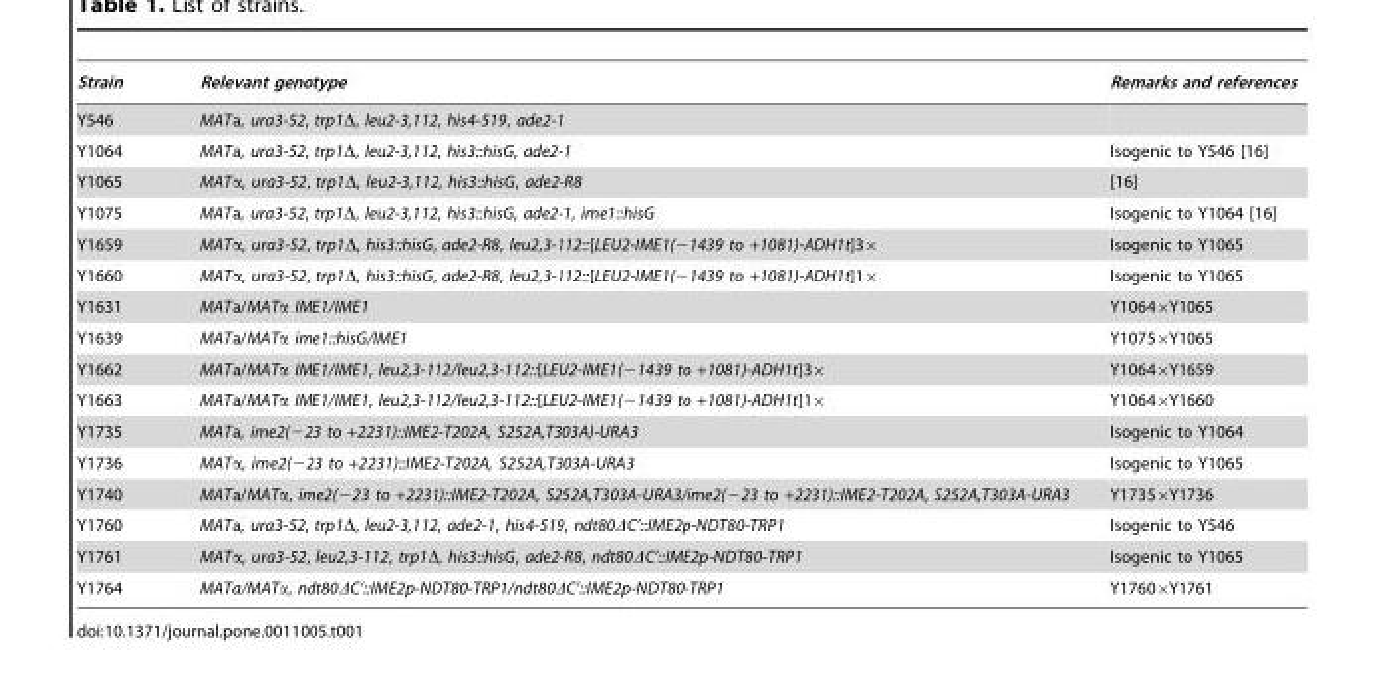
<table><thead><tr><td>Strain</td><td>Relevant genotype</td><td>Remarks and references</td></tr></thead><tbody><tr><td>Y546</td><td>MATa, ura3-52, trp1Δ, leu2-3,112, his4-519, ade2-1</td><td></td></tr><tr><td>Y1064</td><td>MATa, ura3-52, trp1Δ, leu2-3,112, his3::hisG, ade2-1</td><td>Isogenic to Y546 [16]</td></tr><tr><td>Y1065</td><td>MATα, ura3-52, trp1Δ, leu2-3,112, his3::hisG, ade2-R8</td><td>[16]</td></tr><tr><td>Y1075</td><td>MATa, ura3-52, trp1Δ, leu2-3,112, his3::hisG, ade2-1, ime1::hisG</td><td>Isogenic to Y1064 [16]</td></tr><tr><td>Y1659</td><td>MATα, ura3-52, trp1Δ, his3::hisG, ade2-R8, leu2,3-112::[LEU2-IME1(−1439 to +1081)-ADH1t]3×</td><td>Isogenic to Y1065</td></tr><tr><td>Y1660</td><td>MATα, ura3-52, trp1Δ, his3::hisG, ade2-R8, leu2,3-112::[LEU2-IME1(−1439 to +1081)-ADH1t]1×</td><td>Isogenic to Y1065</td></tr><tr><td>Y1631</td><td>MATa/MATα IME1/IME1</td><td>Y1064×Y1065</td></tr><tr><td>Y1639</td><td>MATa/MATα ime1::hisG/IME1</td><td>Y1075×Y1065</td></tr><tr><td>Y1662</td><td>MATa/MATα IME1/IME1, leu2,3-112/leu2,3-112::[LEU2-IME1(−1439 to +1081)-ADH1t]3×</td><td>Y1064×Y1659</td></tr><tr><td>Y1663</td><td>MATa/MATα IME1/IME1, leu2,3-112/leu2,3-112::[LEU2-IME1(−1439 to +1081)-ADH1t]1×</td><td>Y1064×Y1660</td></tr><tr><td>Y1735</td><td>MATa, ime2(−23 to +2231)::IME2-T202A, S252A,T303A)-URA3</td><td>Isogenic to Y1064</td></tr><tr><td>Y1736</td><td>MATα, ime2(−23 to +2231)::IME2-T202A, S252A,T303A-URA3</td><td>Isogenic to Y1065</td></tr><tr><td>Y1740</td><td>MATa/MATα, ime2(−23 to +2231)::IME2-T202A, S252A,T303A-URA3/ime2(−23 to +2231)::IME2-T202A, S252A,T303A-URA3</td><td>Y1735×Y1736</td></tr><tr><td>Y1760</td><td>MATa, ura3-52, trp1Δ, leu2-3,112, ade2-1, his4-519, ndt80ΔC’::IME2p-NDT80-TRP1</td><td>Isogenic to Y546</td></tr><tr><td>Y1761</td><td>MATα, ura3-52, leu2,3-112, trp1Δ, his3::hisG, ade2-R8, ndt80ΔC’::IME2p-NDT80-TRP1</td><td>Isogenic to Y1065</td></tr><tr><td>Y1764</td><td>MATa/MATα, ndt80ΔC’::IME2p-NDT80-TRP1/ndt80ΔC’::IME2p-NDT80-TRP1</td><td>Y1760×Y1761</td></tr></tbody></table>